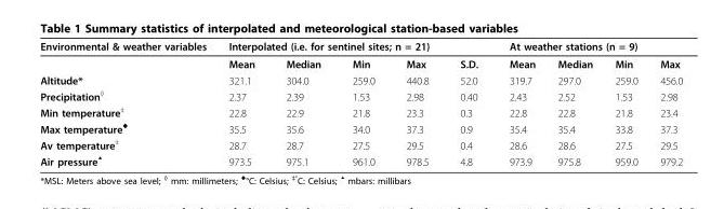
<table><thead><tr><td rowspan="2">Environmental &amp; weather variables</td><td colspan="5">Interpolated (i.e. for sentinel sites; n = 21)</td><td colspan="4">At weather stations (n = 9)</td></tr><tr><td>Mean</td><td>Median</td><td>Min</td><td>Max</td><td>S.D.</td><td>Mean</td><td>Median</td><td>Min</td><td>Max</td></tr></thead><tbody><tr><td>Altitude*</td><td>321.1</td><td>304.0</td><td>259.0</td><td>440.8</td><td>52.0</td><td>319.7</td><td>297.0</td><td>259.0</td><td>456.0</td></tr><tr><td>Precipitation<sup>◊</sup></td><td>2.37</td><td>2.39</td><td>1.53</td><td>2.98</td><td>0.40</td><td>2.43</td><td>2.52</td><td>1.53</td><td>2.98</td></tr><tr><td>Min temperature<sup>‡</sup></td><td>22.8</td><td>22.9</td><td>21.8</td><td>23.3</td><td>0.3</td><td>22.8</td><td>22.8</td><td>21.8</td><td>23.4</td></tr><tr><td>Max temperature<sup>♦</sup></td><td>35.5</td><td>35.6</td><td>34.0</td><td>37.3</td><td>0.9</td><td>35.4</td><td>35.4</td><td>33.8</td><td>37.3</td></tr><tr><td>Av temperature<sup>‡</sup></td><td>28.7</td><td>28.7</td><td>27.5</td><td>29.5</td><td>0.4</td><td>28.6</td><td>28.6</td><td>27.5</td><td>29.5</td></tr><tr><td>Air pressure<sup>▲</sup></td><td>973.5</td><td>975.1</td><td>961.0</td><td>978.5</td><td>4.8</td><td>973.9</td><td>975.8</td><td>959.0</td><td>979.2</td></tr></tbody></table>